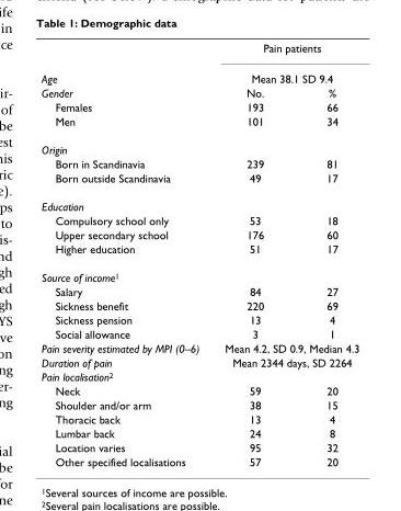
<table><thead><tr><td rowspan="3">Age Gender</td><td rowspan="2" colspan="2">Pain patients Mean 38.1 SD 9.4</td></tr><tr></tr><tr><td>No.</td><td>%</td></tr></thead><tbody><tr><td>Females</td><td>193</td><td>66</td></tr><tr><td>Men</td><td>101</td><td>34</td></tr><tr><td colspan="3">Origin</td></tr><tr><td>Born in Scandinavia</td><td>239</td><td>81</td></tr><tr><td>Born outside Scandinavia</td><td>49</td><td>17</td></tr><tr><td colspan="3">Education</td></tr><tr><td>Compulsory school only</td><td>53</td><td>18</td></tr><tr><td>Upper secondary school</td><td>176</td><td>60</td></tr><tr><td>Higher education</td><td>51</td><td>17</td></tr><tr><td colspan="3">Source of income<sup>1</sup></td></tr><tr><td>Salary</td><td>84</td><td>27</td></tr><tr><td>Sickness benefit</td><td>220</td><td>69</td></tr><tr><td>Sickness pension</td><td>13</td><td>4</td></tr><tr><td>Social allowance</td><td>3</td><td>1</td></tr><tr><td>Pain severity estimated by MPI (0–6)</td><td colspan="2">Mean 4.2, SD 0.9, Median 4.3</td></tr><tr><td>Duration of pain</td><td colspan="2">Mean 2344 days, SD 2264</td></tr><tr><td colspan="3">Pain localisation<sup>2</sup></td></tr><tr><td>Neck</td><td>59</td><td>20</td></tr><tr><td>Shoulder and/or arm</td><td>38</td><td>15</td></tr><tr><td>Thoracic back</td><td>13</td><td>4</td></tr><tr><td>Lumbar back</td><td>24</td><td>8</td></tr><tr><td>Location varies</td><td>95</td><td>32</td></tr><tr><td>Other specified localisations</td><td>57</td><td>20</td></tr></tbody></table>